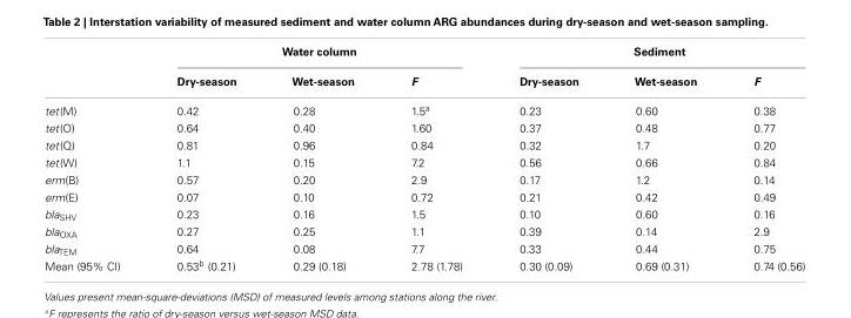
<table><thead><tr><td rowspan="2"></td><td colspan="3">Water column</td><td colspan="3">Sediment</td></tr><tr><td>Dry-season</td><td>Wet-season</td><td>F</td><td>Dry-season</td><td>Wet-season</td><td>F</td></tr></thead><tbody><tr><td>tet(M)</td><td>0.42</td><td>0.28</td><td>1.5<sup>a</sup></td><td>0.23</td><td>0.60</td><td>0.38</td></tr><tr><td>tet(O)</td><td>0.64</td><td>0.40</td><td>1.60</td><td>0.37</td><td>0.48</td><td>0.77</td></tr><tr><td>tet(Q)</td><td>0.81</td><td>0.96</td><td>0.84</td><td>0.32</td><td>1.7</td><td>0.20</td></tr><tr><td>tet(W)</td><td>1.1</td><td>0.15</td><td>7.2</td><td>0.56</td><td>0.66</td><td>0.84</td></tr><tr><td>erm(B)</td><td>0.57</td><td>0.20</td><td>2.9</td><td>0.17</td><td>1.2</td><td>0.14</td></tr><tr><td>erm(E)</td><td>0.07</td><td>0.10</td><td>0.72</td><td>0.21</td><td>0.42</td><td>0.49</td></tr><tr><td>bla<sub>SHV</sub></td><td>0.23</td><td>0.16</td><td>1.5</td><td>0.10</td><td>0.60</td><td>0.16</td></tr><tr><td>bla<sub>OXA</sub></td><td>0.27</td><td>0.25</td><td>1.1</td><td>0.39</td><td>0.14</td><td>2.9</td></tr><tr><td>bla<sub>TEM</sub></td><td>0.64</td><td>0.08</td><td>7.7</td><td>0.33</td><td>0.44</td><td>0.75</td></tr><tr><td>Mean (95% CI)</td><td>0.53<sup>b</sup> (0.21)</td><td>0.29 (0.18)</td><td>2.78 (1.78)</td><td>0.30 (0.09)</td><td>0.69 (0.31)</td><td>0.74 (0.56)</td></tr></tbody></table>